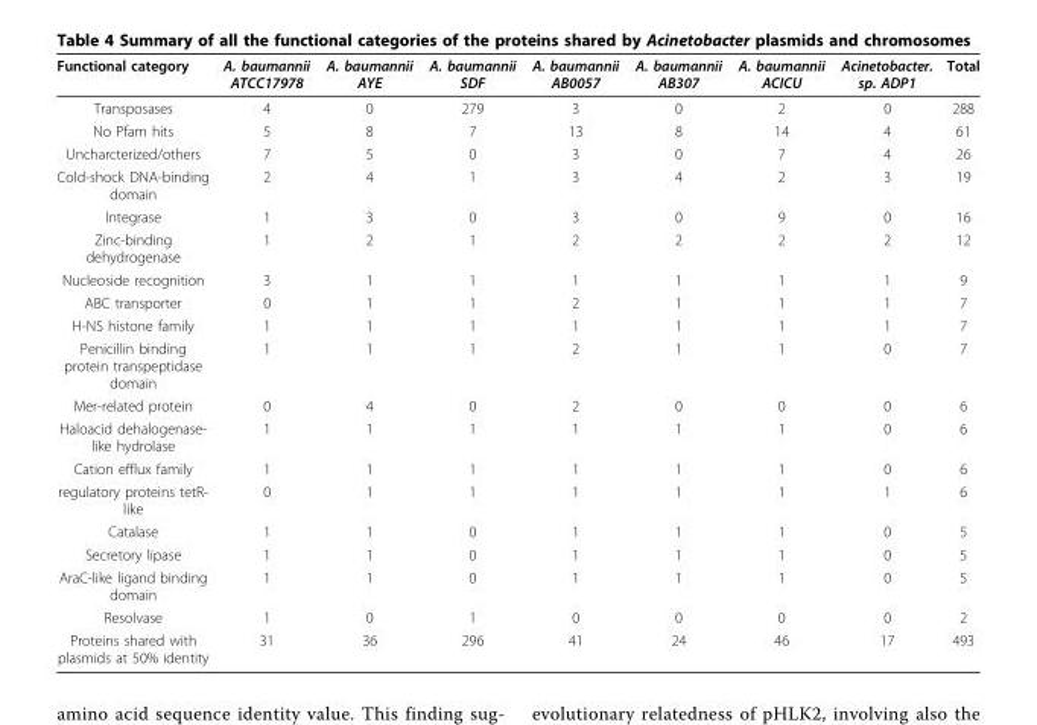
<table><thead><tr><td>Functional category</td><td>A. baumannii ATCC17978</td><td>A. baumannii AYE</td><td>A. baumannii SDF</td><td>A. baumannii AB0057</td><td>A. baumannii AB307</td><td>A. baumannii ACICU</td><td>Acinetobacter. sp. ADP1</td><td>Total</td></tr></thead><tbody><tr><td>Transposases</td><td>4</td><td>0</td><td>279</td><td>3</td><td>0</td><td>2</td><td>0</td><td>288</td></tr><tr><td>No Pfam hits</td><td>5</td><td>8</td><td>7</td><td>13</td><td>8</td><td>14</td><td>4</td><td>61</td></tr><tr><td>Uncharcterized/others</td><td>7</td><td>5</td><td>0</td><td>3</td><td>0</td><td>7</td><td>4</td><td>26</td></tr><tr><td>Cold-shock DNA-binding domain</td><td>2</td><td>4</td><td>1</td><td>3</td><td>4</td><td>2</td><td>3</td><td>19</td></tr><tr><td>Integrase</td><td>1</td><td>3</td><td>0</td><td>3</td><td>0</td><td>9</td><td>0</td><td>16</td></tr><tr><td>Zinc-binding dehydrogenase</td><td>1</td><td>2</td><td>1</td><td>2</td><td>2</td><td>2</td><td>2</td><td>12</td></tr><tr><td>Nucleoside recognition</td><td>3</td><td>1</td><td>1</td><td>1</td><td>1</td><td>1</td><td>1</td><td>9</td></tr><tr><td>ABC transporter</td><td>0</td><td>1</td><td>1</td><td>2</td><td>1</td><td>1</td><td>1</td><td>7</td></tr><tr><td>H-NS histone family</td><td>1</td><td>1</td><td>1</td><td>1</td><td>1</td><td>1</td><td>1</td><td>7</td></tr><tr><td>Penicillin binding protein transpeptidase domain</td><td>1</td><td>1</td><td>1</td><td>2</td><td>1</td><td>1</td><td>0</td><td>7</td></tr><tr><td>Mer-related protein</td><td>0</td><td>4</td><td>0</td><td>2</td><td>0</td><td>0</td><td>0</td><td>6</td></tr><tr><td>Haloacid dehalogenase- like hydrolase</td><td>1</td><td>1</td><td>1</td><td>1</td><td>1</td><td>1</td><td>0</td><td>6</td></tr><tr><td>Cation efflux family</td><td>1</td><td>1</td><td>1</td><td>1</td><td>1</td><td>1</td><td>0</td><td>6</td></tr><tr><td>regulatory proteins tetR- like</td><td>0</td><td>1</td><td>1</td><td>1</td><td>1</td><td>1</td><td>1</td><td>6</td></tr><tr><td>Catalase</td><td>1</td><td>1</td><td>0</td><td>1</td><td>1</td><td>1</td><td>0</td><td>5</td></tr><tr><td>Secretory lipase</td><td>1</td><td>1</td><td>0</td><td>1</td><td>1</td><td>1</td><td>0</td><td>5</td></tr><tr><td>AraC-like ligand binding domain</td><td>1</td><td>1</td><td>0</td><td>1</td><td>1</td><td>1</td><td>0</td><td>5</td></tr><tr><td>Resolvase</td><td>1</td><td>0</td><td>1</td><td>0</td><td>0</td><td>0</td><td>0</td><td>2</td></tr><tr><td>Proteins shared with plasmids at 50% identity</td><td>31</td><td>36</td><td>296</td><td>41</td><td>24</td><td>46</td><td>17</td><td>493</td></tr></tbody></table>